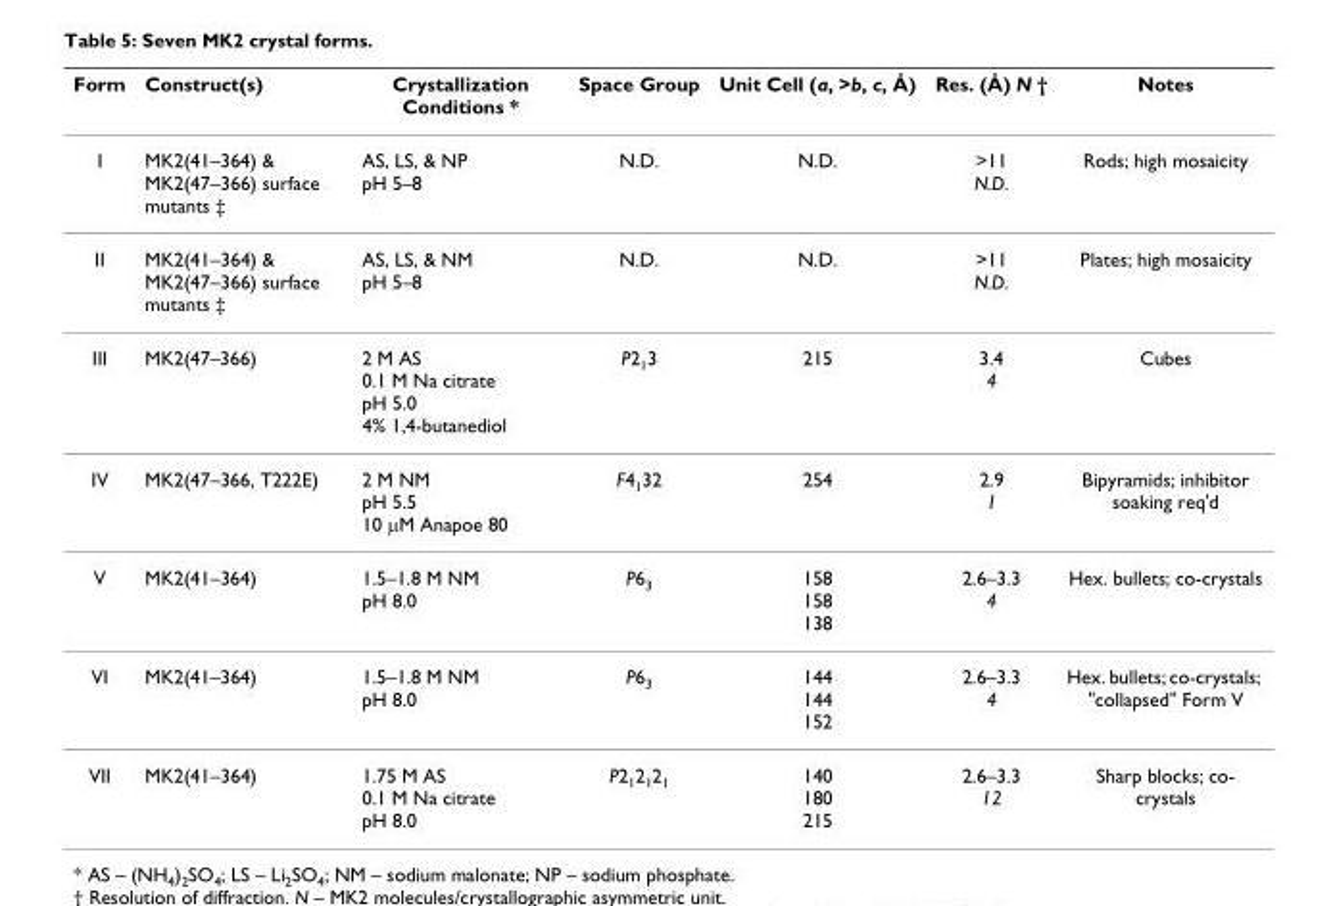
<table><thead><tr><td>Form</td><td>Construct(s)</td><td>Crystallization Conditions *</td><td>Space Group</td><td>Unit Cell (a, &gt;b, c, Å)</td><td>Res. (Å) N †</td><td>Notes</td></tr></thead><tbody><tr><td>I</td><td>MK2(41–364) &amp; MK2(47–366) surface mutants ‡</td><td>AS, LS, &amp; NP pH 5–8</td><td>N.D.</td><td>N.D.</td><td>&gt;11 N.D.</td><td>Rods; high mosaicity</td></tr><tr><td>II</td><td>MK2(41–364) &amp; MK2(47–366) surface mutants ‡</td><td>AS, LS, &amp; NM pH 5–8</td><td>N.D.</td><td>N.D.</td><td>&gt;11 N.D.</td><td>Plates; high mosaicity</td></tr><tr><td>III</td><td>MK2(47–366)</td><td>2 M AS 0.1 M Na citrate pH 5.0 4% 1,4-butanediol</td><td>P2<sub>1</sub>3</td><td>215</td><td>3.4 4</td><td>Cubes</td></tr><tr><td>IV</td><td>MK2(47–366, T222E)</td><td>2 M NM pH 5.5 10 μM Anapoe 80</td><td>F4<sub>1</sub>32</td><td>254</td><td>2.9 1</td><td>Bipyramids; inhibitor soaking req&#x27;d</td></tr><tr><td>V</td><td>MK2(41–364)</td><td>1.5–1.8 M NM pH 8.0</td><td>P6<sub>3</sub></td><td>158 158 138</td><td>2.6–3.3 4</td><td>Hex. bullets; co-crystals</td></tr><tr><td>VI</td><td>MK2(41–364)</td><td>1.5–1.8 M NM pH 8.0</td><td>P6<sub>3</sub></td><td>144 144 152</td><td>2.6–3.3 4</td><td>Hex. bullets; co-crystals; &quot;collapsed&quot; Form V</td></tr><tr><td>VII</td><td>MK2(41–364)</td><td>1.75 M AS 0.1 M Na citrate pH 8.0</td><td>P2<sub>1</sub>2<sub>1</sub>2<sub>1</sub></td><td>140 180 215</td><td>2.6–3.3 12</td><td>Sharp blocks; co- crystals</td></tr></tbody></table>